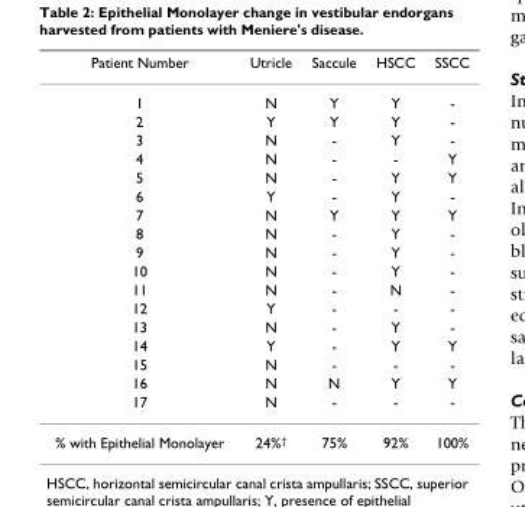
<table><thead><tr><td>Patient Number</td><td>Utricle</td><td>Saccule</td><td>HSCC</td><td>SSCC</td></tr></thead><tbody><tr><td>1</td><td>N</td><td>Y</td><td>Y</td><td>-</td></tr><tr><td>2</td><td>Y</td><td>Y</td><td>Y</td><td>-</td></tr><tr><td>3</td><td>N</td><td>-</td><td>Y</td><td>-</td></tr><tr><td>4</td><td>N</td><td>-</td><td>-</td><td>Y</td></tr><tr><td>5</td><td>N</td><td>-</td><td>Y</td><td>Y</td></tr><tr><td>6</td><td>Y</td><td>-</td><td>Y</td><td>-</td></tr><tr><td>7</td><td>N</td><td>Y</td><td>Y</td><td>Y</td></tr><tr><td>8</td><td>N</td><td>-</td><td>Y</td><td>-</td></tr><tr><td>9</td><td>N</td><td>-</td><td>Y</td><td>-</td></tr><tr><td>10</td><td>N</td><td>-</td><td>Y</td><td>-</td></tr><tr><td>11</td><td>N</td><td>-</td><td>N</td><td>-</td></tr><tr><td>12</td><td>Y</td><td>-</td><td>-</td><td>-</td></tr><tr><td>13</td><td>N</td><td>-</td><td>Y</td><td>-</td></tr><tr><td>14</td><td>Y</td><td>-</td><td>Y</td><td>Y</td></tr><tr><td>15</td><td>N</td><td>-</td><td>-</td><td>-</td></tr><tr><td>16</td><td>N</td><td>N</td><td>Y</td><td>Y</td></tr><tr><td>17</td><td>N</td><td>-</td><td>-</td><td>-</td></tr><tr><td>% with Epithelial Monolayer</td><td>24%<sup>†</sup></td><td>75%</td><td>92%</td><td>100%</td></tr></tbody></table>